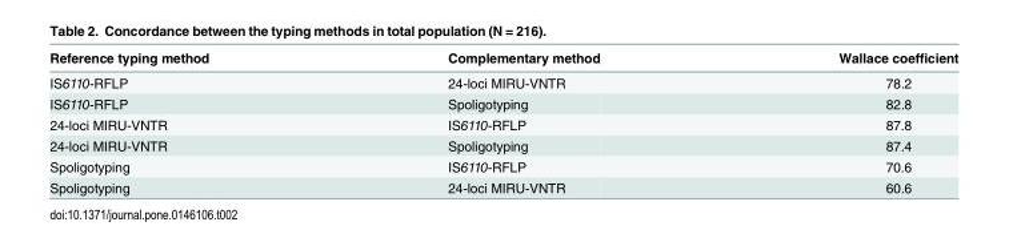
<table><thead><tr><td>Reference typing method</td><td>Complementary method</td><td>Wallace coefficient</td></tr></thead><tbody><tr><td>IS6110-RFLP</td><td>24-loci MIRU-VNTR</td><td>78.2</td></tr><tr><td>IS6110-RFLP</td><td>Spoligotyping</td><td>82.8</td></tr><tr><td>24-loci MIRU-VNTR</td><td>IS6110-RFLP</td><td>87.8</td></tr><tr><td>24-loci MIRU-VNTR</td><td>Spoligotyping</td><td>87.4</td></tr><tr><td>Spoligotyping</td><td>IS6110-RFLP</td><td>70.6</td></tr><tr><td>Spoligotyping</td><td>24-loci MIRU-VNTR</td><td>60.6</td></tr></tbody></table>